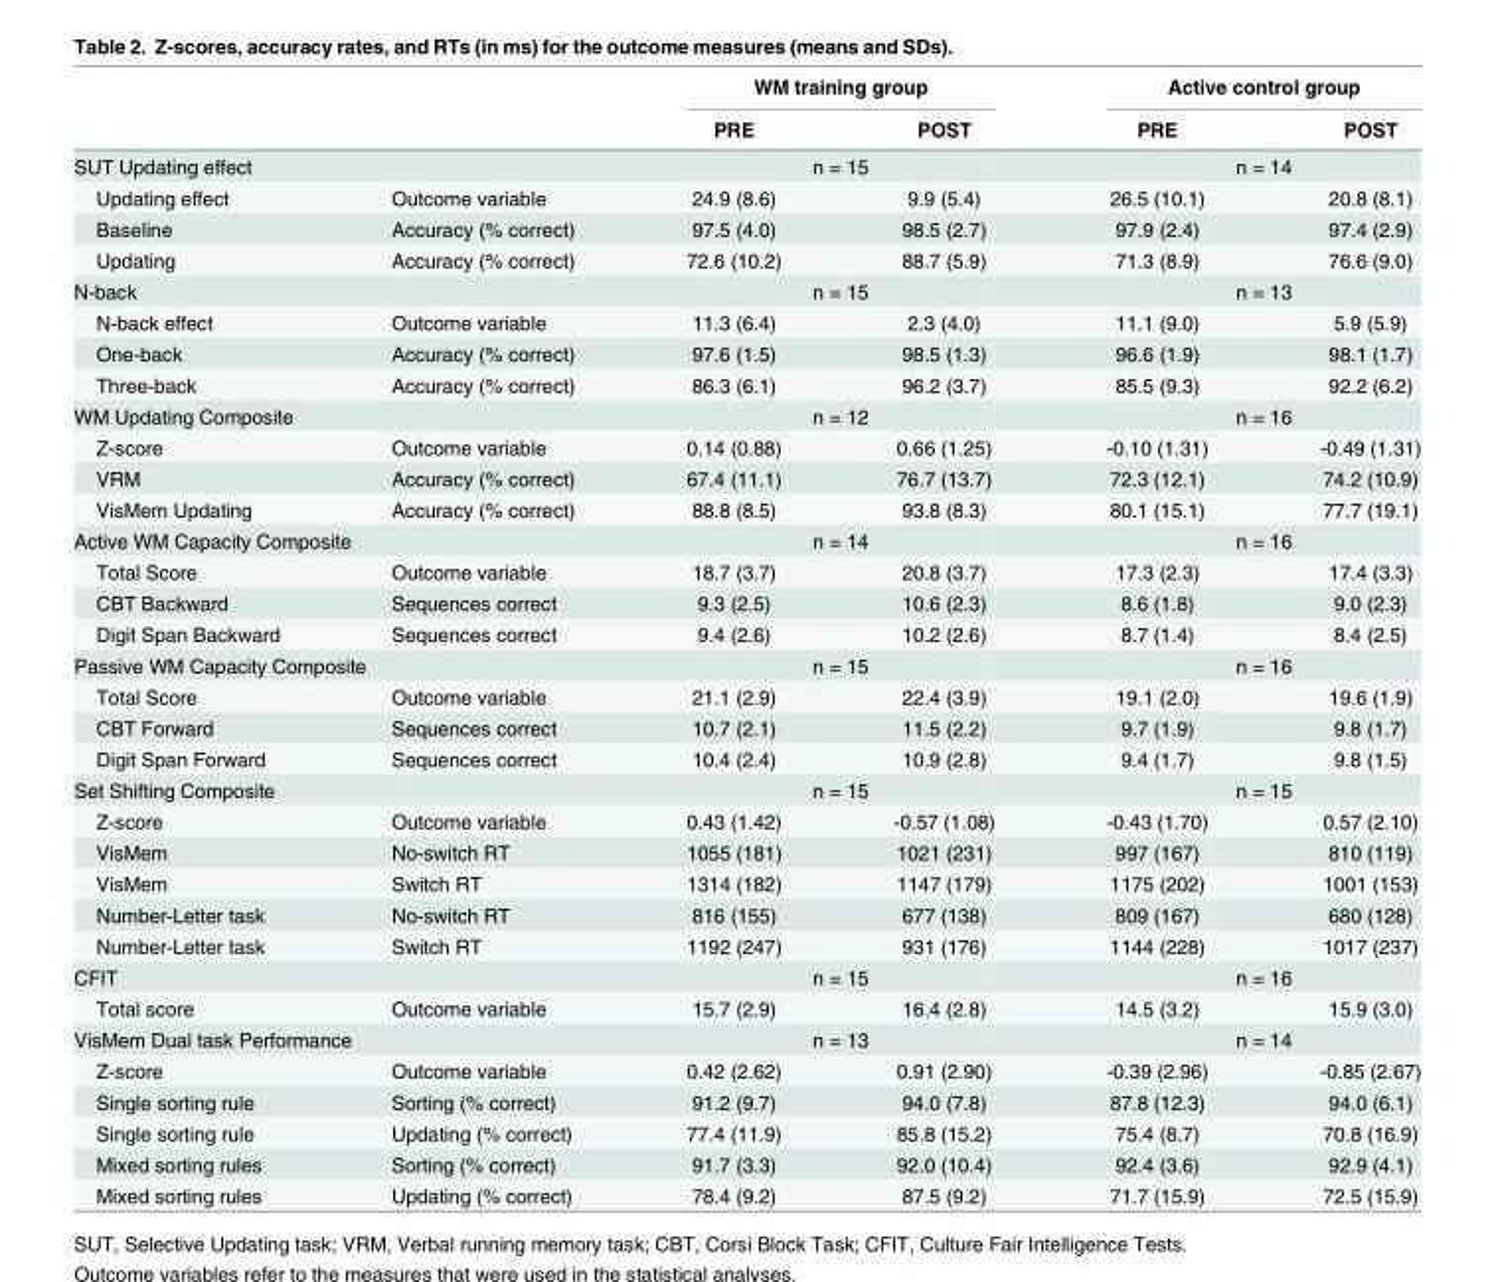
<table><thead><tr><td rowspan="2"></td><td rowspan="2"></td><td colspan="2">WM training group</td><td colspan="2">Active control group</td></tr><tr><td>PRE</td><td>POST</td><td>PRE</td><td>POST</td></tr></thead><tbody><tr><td colspan="2">SUT Updating effect</td><td colspan="2">n = 15</td><td colspan="2">n = 14</td></tr><tr><td>Updating effect</td><td>Outcome variable</td><td>24.9 (8.6)</td><td>9.9 (5.4)</td><td>26.5 (10.1)</td><td>20.8 (8.1)</td></tr><tr><td>Baseline</td><td>Accuracy (% correct)</td><td>97.5 (4.0)</td><td>98.5 (2.7)</td><td>97.9 (2.4)</td><td>97.4 (2.9)</td></tr><tr><td>Updating</td><td>Accuracy (% correct)</td><td>72.6 (10.2)</td><td>88.7 (5.9)</td><td>71.3 (8.9)</td><td>76.6 (9.0)</td></tr><tr><td colspan="2">N-back</td><td colspan="2">n = 15</td><td colspan="2">n = 13</td></tr><tr><td>N-back effect</td><td>Outcome variable</td><td>11.3 (6.4)</td><td>2.3 (4.0)</td><td>11.1 (9.0)</td><td>5.9 (5.9)</td></tr><tr><td>One-back</td><td>Accuracy (% correct)</td><td>97.6 (1.5)</td><td>98.5 (1.3)</td><td>96.6 (1.9)</td><td>98.1 (1.7)</td></tr><tr><td>Three-back</td><td>Accuracy (% correct)</td><td>86.3 (6.1)</td><td>96.2 (3.7)</td><td>85.5 (9.3)</td><td>92.2 (6.2)</td></tr><tr><td colspan="2">WM Updating Composite</td><td colspan="2">n = 12</td><td colspan="2">n = 16</td></tr><tr><td>Z-score</td><td>Outcome variable</td><td>0.14 (0.88)</td><td>0.66 (1.25)</td><td>-0.10 (1.31)</td><td>-0.49 (1.31)</td></tr><tr><td>VRM</td><td>Accuracy (% correct)</td><td>67.4 (11.1)</td><td>76.7 (13.7)</td><td>72.3 (12.1)</td><td>74.2 (10.9)</td></tr><tr><td>VisMem Updating</td><td>Accuracy (% correct)</td><td>88.8 (8.5)</td><td>93.8 (8.3)</td><td>80.1 (15.1)</td><td>77.7 (19.1)</td></tr><tr><td colspan="2">Active WM Capacity Composite</td><td colspan="2">n = 14</td><td colspan="2">n = 16</td></tr><tr><td>Total Score</td><td>Outcome variable</td><td>18.7 (3.7)</td><td>20.8 (3.7)</td><td>17.3 (2.3)</td><td>17.4 (3.3)</td></tr><tr><td>CBT Backward</td><td>Sequences correct</td><td>9.3 (2.5)</td><td>10.6 (2.3)</td><td>8.6 (1.8)</td><td>9.0 (2.3)</td></tr><tr><td>Digit Span Backward</td><td>Sequences correct</td><td>9.4 (2.6)</td><td>10.2 (2.6)</td><td>8.7 (1.4)</td><td>8.4 (2.5)</td></tr><tr><td colspan="2">Passive WM Capacity Composite</td><td colspan="2">n = 15</td><td colspan="2">n = 16</td></tr><tr><td>Total Score</td><td>Outcome variable</td><td>21.1 (2.9)</td><td>22.4 (3.9)</td><td>19.1 (2.0)</td><td>19.6 (1.9)</td></tr><tr><td>CBT Forward</td><td>Sequences correct</td><td>10.7 (2.1)</td><td>11.5 (2.2)</td><td>9.7 (1.9)</td><td>9.8 (1.7)</td></tr><tr><td>Digit Span Forward</td><td>Sequences correct</td><td>10.4 (2.4)</td><td>10.9 (2.8)</td><td>9.4 (1.7)</td><td>9.8 (1.5)</td></tr><tr><td colspan="2">Set Shifting Composite</td><td colspan="2">n = 15</td><td colspan="2">n = 15</td></tr><tr><td>Z-score</td><td>Outcome variable</td><td>0.43 (1.42)</td><td>-0.57 (1.08)</td><td>-0.43 (1.70)</td><td>0.57 (2.10)</td></tr><tr><td>VisMem</td><td>No-switch RT</td><td>1055 (181)</td><td>1021 (231)</td><td>997 (167)</td><td>810 (119)</td></tr><tr><td>VisMem</td><td>Switch RT</td><td>1314 (182)</td><td>1147 (179)</td><td>1175 (202)</td><td>1001 (153)</td></tr><tr><td>Number-Letter task</td><td>No-switch RT</td><td>816 (155)</td><td>677 (138)</td><td>809 (167)</td><td>680 (128)</td></tr><tr><td>Number-Letter task</td><td>Switch RT</td><td>1192 (247)</td><td>931 (176)</td><td>1144 (228)</td><td>1017 (237)</td></tr><tr><td colspan="2">CFIT</td><td colspan="2">n = 15</td><td colspan="2">n = 16</td></tr><tr><td>Total score</td><td>Outcome variable</td><td>15.7 (2.9)</td><td>16.4 (2.8)</td><td>14.5 (3.2)</td><td>15.9 (3.0)</td></tr><tr><td colspan="2">VisMem Dual task Performance</td><td colspan="2">n = 13</td><td colspan="2">n = 14</td></tr><tr><td>Z-score</td><td>Outcome variable</td><td>0.42 (2.62)</td><td>0.91 (2.90)</td><td>-0.39 (2.96)</td><td>-0.85 (2.67)</td></tr><tr><td>Single sorting rule</td><td>Sorting (% correct)</td><td>91.2 (9.7)</td><td>94.0 (7.8)</td><td>87.8 (12.3)</td><td>94.0 (6.1)</td></tr><tr><td>Single sorting rule</td><td>Updating (% correct)</td><td>77.4 (11.9)</td><td>85.8 (15.2)</td><td>75.4 (8.7)</td><td>70.8 (16.9)</td></tr><tr><td>Mixed sorting rules</td><td>Sorting (% correct)</td><td>91.7 (3.3)</td><td>92.0 (10.4)</td><td>92.4 (3.6)</td><td>92.9 (4.1)</td></tr><tr><td>Mixed sorting rules</td><td>Updating (% correct)</td><td>78.4 (9.2)</td><td>87.5 (9.2)</td><td>71.7 (15.9)</td><td>72.5 (15.9)</td></tr></tbody></table>